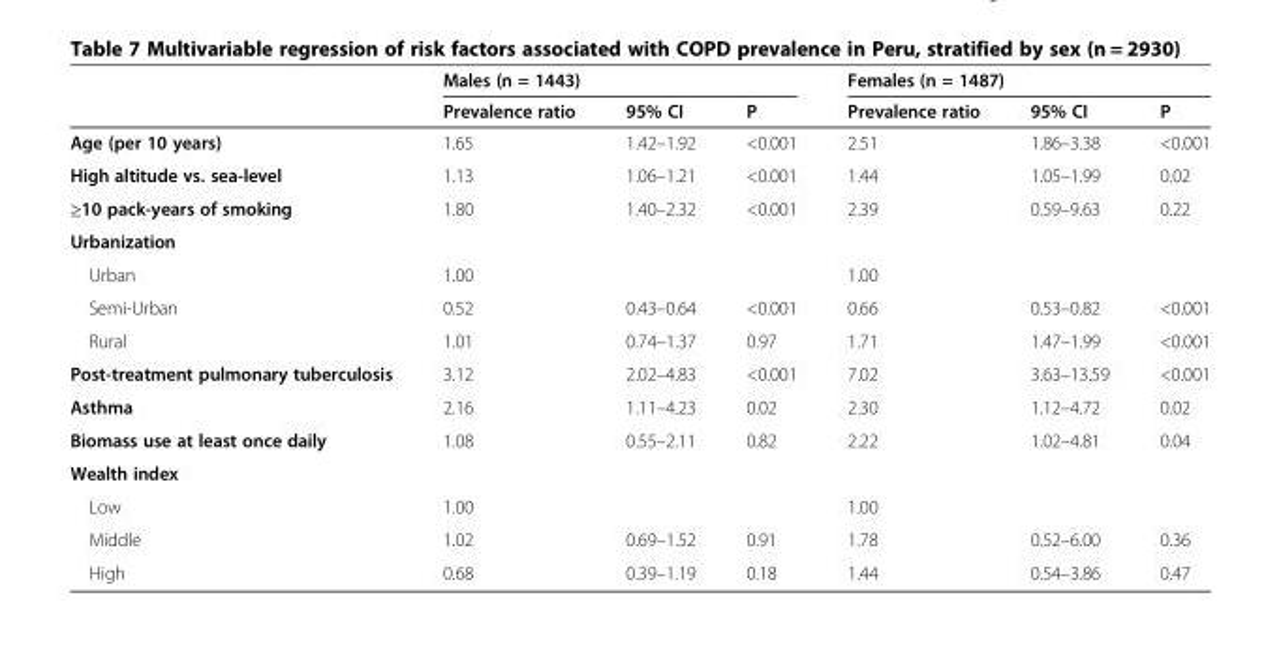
<table><thead><tr><td rowspan="2"></td><td colspan="3">Males (n = 1443)</td><td colspan="3">Females (n = 1487)</td></tr><tr><td>Prevalence ratio</td><td>95% CI</td><td>P</td><td>Prevalence ratio</td><td>95% CI</td><td>P</td></tr></thead><tbody><tr><td>Age (per 10 years)</td><td>1.65</td><td>1.42–1.92</td><td>&lt;0.001</td><td>2.51</td><td>1.86–3.38</td><td>&lt;0.001</td></tr><tr><td>High altitude vs. sea-level</td><td>1.13</td><td>1.06–1.21</td><td>&lt;0.001</td><td>1.44</td><td>1.05–1.99</td><td>0.02</td></tr><tr><td>≥10 pack-years of smoking</td><td>1.80</td><td>1.40–2.32</td><td>&lt;0.001</td><td>2.39</td><td>0.59–9.63</td><td>0.22</td></tr><tr><td colspan="7">Urbanization</td></tr><tr><td>Urban</td><td>1.00</td><td></td><td></td><td>1.00</td><td></td><td></td></tr><tr><td>Semi-Urban</td><td>0.52</td><td>0.43–0.64</td><td>&lt;0.001</td><td>0.66</td><td>0.53–0.82</td><td>&lt;0.001</td></tr><tr><td>Rural</td><td>1.01</td><td>0.74–1.37</td><td>0.97</td><td>1.71</td><td>1.47–1.99</td><td>&lt;0.001</td></tr><tr><td>Post-treatment pulmonary tuberculosis</td><td>3.12</td><td>2.02–4.83</td><td>&lt;0.001</td><td>7.02</td><td>3.63–13.59</td><td>&lt;0.001</td></tr><tr><td>Asthma</td><td>2.16</td><td>1.11–4.23</td><td>0.02</td><td>2.30</td><td>1.12–4.72</td><td>0.02</td></tr><tr><td>Biomass use at least once daily</td><td>1.08</td><td>0.55–2.11</td><td>0.82</td><td>2.22</td><td>1.02–4.81</td><td>0.04</td></tr><tr><td colspan="7">Wealth index</td></tr><tr><td>Low</td><td>1.00</td><td></td><td></td><td>1.00</td><td></td><td></td></tr><tr><td>Middle</td><td>1.02</td><td>0.69–1.52</td><td>0.91</td><td>1.78</td><td>0.52–6.00</td><td>0.36</td></tr><tr><td>High</td><td>0.68</td><td>0.39–1.19</td><td>0.18</td><td>1.44</td><td>0.54–3.86</td><td>0.47</td></tr></tbody></table>